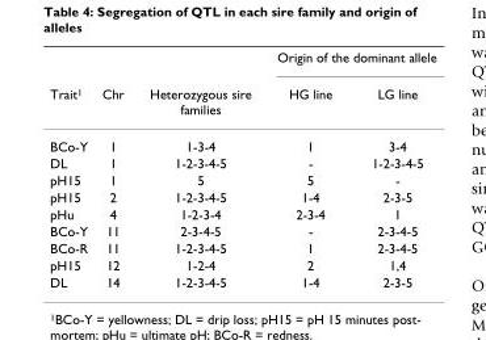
<table><thead><tr><td rowspan="2">Trait<sup>1</sup></td><td rowspan="2">Chr</td><td rowspan="2">Heterozygous sire families</td><td colspan="2">Origin of the dominant allele</td></tr><tr><td>HG line</td><td>LG line</td></tr></thead><tbody><tr><td>BCo-Y</td><td>1</td><td>1-3-4</td><td>1</td><td>3-4</td></tr><tr><td>DL</td><td>1</td><td>1-2-3-4-5</td><td>-</td><td>1-2-3-4-5</td></tr><tr><td>pH15</td><td>1</td><td>5</td><td>5</td><td>-</td></tr><tr><td>pH15</td><td>2</td><td>1-2-3-4-5</td><td>1-4</td><td>2-3-5</td></tr><tr><td>pHu</td><td>4</td><td>1-2-3-4</td><td>2-3-4</td><td>1</td></tr><tr><td>BCo-Y</td><td>11</td><td>2-3-4-5</td><td>-</td><td>2-3-4-5</td></tr><tr><td>BCo-R</td><td>11</td><td>1-2-3-4-5</td><td>1</td><td>2-3-4-5</td></tr><tr><td>pH15</td><td>12</td><td>1-2-4</td><td>2</td><td>1,4</td></tr><tr><td>DL</td><td>14</td><td>1-2-3-4-5</td><td>1-4</td><td>2-3-5</td></tr></tbody></table>